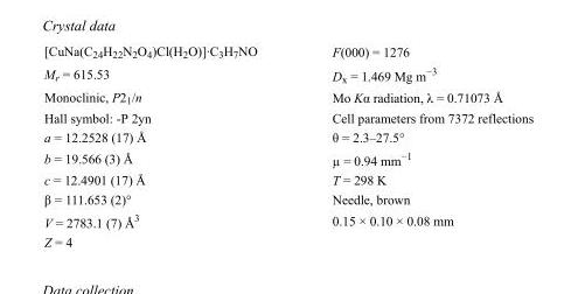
<table><tbody><tr><td>[CuNa(C<sub>24</sub>H<sub>22</sub>N<sub>2</sub>O<sub>4</sub>)Cl(H<sub>2</sub>O)]·C<sub>3</sub>H<sub>7</sub>NO</td><td>F(000) = 1276</td></tr><tr><td>M<sub>r</sub> = 615.53</td><td>D<sub>x</sub> = 1.469 Mg m<sup>−3</sup></td></tr><tr><td>Monoclinic, P2<sub>1</sub>/n</td><td>Mo Kα radiation, λ = 0.71073 Å</td></tr><tr><td>Hall symbol: -P 2yn</td><td>Cell parameters from 7372 reflections</td></tr><tr><td>a = 12.2528 (17) Å</td><td>θ = 2.3–27.5°</td></tr><tr><td>b = 19.566 (3) Å</td><td>µ = 0.94 mm<sup>−1</sup></td></tr><tr><td>c = 12.4901 (17) Å</td><td>T = 298 K</td></tr><tr><td>β = 111.653 (2)°</td><td>Needle, brown</td></tr><tr><td>V = 2783.1 (7) Å<sup>3</sup></td><td>0.15 × 0.10 × 0.08 mm</td></tr><tr><td>Z = 4</td><td></td></tr></tbody></table>